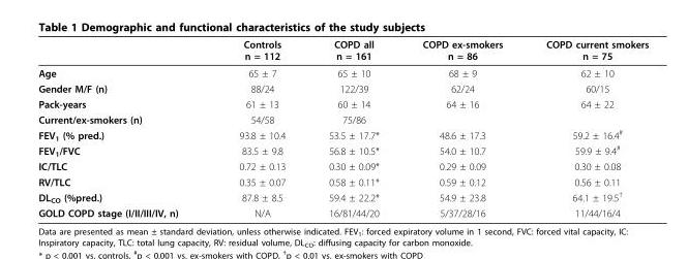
<table><thead><tr><td></td><td>Controls n = 112</td><td>COPD all n = 161</td><td>COPD ex-smokers n = 86</td><td>COPD current smokers n = 75</td></tr></thead><tbody><tr><td>Age</td><td>65 ± 7</td><td>65 ± 10</td><td>68 ± 9</td><td>62 ± 10</td></tr><tr><td>Gender M/F (n)</td><td>88/24</td><td>122/39</td><td>62/24</td><td>60/15</td></tr><tr><td>Pack-years</td><td>61 ± 13</td><td>60 ± 14</td><td>64 ± 16</td><td>64 ± 22</td></tr><tr><td>Current/ex-smokers (n)</td><td>54/58</td><td>75/86</td><td></td><td></td></tr><tr><td>FEV<sub>1</sub> (% pred.)</td><td>93.8 ± 10.4</td><td>53.5 ± 17.7*</td><td>48.6 ± 17.3</td><td>59.2 ± 16.4<sup>#</sup></td></tr><tr><td>FEV<sub>1</sub>/FVC</td><td>83.5 ± 9.8</td><td>56.8 ± 10.5*</td><td>54.0 ± 10.7</td><td>59.9 ± 9.4<sup>#</sup></td></tr><tr><td>IC/TLC</td><td>0.72 ± 0.13</td><td>0.30 ± 0.09*</td><td>0.29 ± 0.09</td><td>0.30 ± 0.08</td></tr><tr><td>RV/TLC</td><td>0.35 ± 0.07</td><td>0.58 ± 0.11*</td><td>0.59 ± 0.12</td><td>0.56 ± 0.11</td></tr><tr><td>DL<sub>CO</sub> (%pred.)</td><td>87.8 ± 8.5</td><td>59.4 ± 22.2*</td><td>54.9 ± 23.8</td><td>64.1 ± 19.5<sup>†</sup></td></tr><tr><td>GOLD COPD stage (I/II/III/IV, n)</td><td>N/A</td><td>16/81/44/20</td><td>5/37/28/16</td><td>11/44/16/4</td></tr></tbody></table>